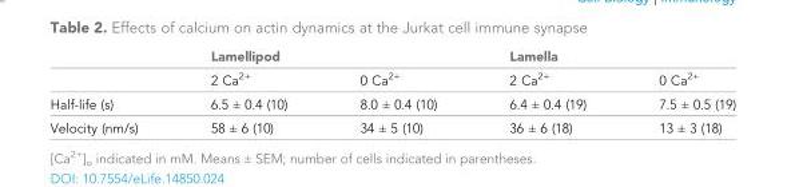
<table><thead><tr><td rowspan="2"></td><td colspan="2">Lamellipod</td><td colspan="2">Lamella</td></tr><tr><td>2 Ca<sup>2+</sup></td><td>0 Ca<sup>2+</sup></td><td>2 Ca<sup>2+</sup></td><td>0 Ca<sup>2+</sup></td></tr></thead><tbody><tr><td>Half-life (s)</td><td>6.5 ± 0.4 (10)</td><td>8.0 ± 0.4 (10)</td><td>6.4 ± 0.4 (19)</td><td>7.5 ± 0.5 (19)</td></tr><tr><td>Velocity (nm/s)</td><td>58 ± 6 (10)</td><td>34 ± 5 (10)</td><td>36 ± 6 (18)</td><td>13 ± 3 (18)</td></tr></tbody></table>